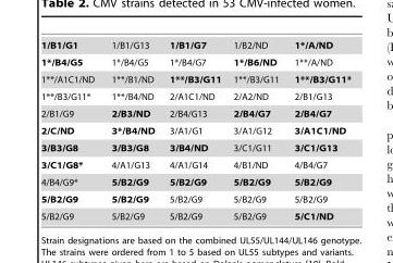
<table><tbody><tr><td>1/B1/G1</td><td>1/B1/G13</td><td>1/B1/G7</td><td>1/B2/ND</td><td>1*/A/ND</td></tr><tr><td>1*/B4/G5</td><td>1*/B4/G5</td><td>1*/B4/G7</td><td>1*/B6/ND</td><td>1**/A/ND</td></tr><tr><td>1**/A1C1/ND</td><td>1**/B1/ND</td><td>1**/B3/G11</td><td>1**/B3/G11</td><td>1**/B3/G11*</td></tr><tr><td>1**/B3/G11*</td><td>1**/B4/ND</td><td>2/A1C1/ND</td><td>2/A2/ND</td><td>2/B1/G13</td></tr><tr><td>2/B1/G9</td><td>2/B3/ND</td><td>2/B4/G13</td><td>2/B4/G7</td><td>2/B4/G7</td></tr><tr><td>2/C/ND</td><td>3*/B4/ND</td><td>3/A1/G1</td><td>3/A1/G12</td><td>3/A1C1/ND</td></tr><tr><td>3/B3/G8</td><td>3/B3/G8</td><td>3/B4/ND</td><td>3/C1/G11</td><td>3/C1/G13</td></tr><tr><td>3/C1/G8*</td><td>4/A1/G13</td><td>4/A1/G14</td><td>4/B1/ND</td><td>4/B4/G7</td></tr><tr><td>4/B4/G9*</td><td>5/B2/G9</td><td>5/B2/G9</td><td>5/B2/G9</td><td>5/B2/G9</td></tr><tr><td>5/B2/G9</td><td>5/B2/G9</td><td>5/B2/G9</td><td>5/B2/G9</td><td>5/B2/G9</td></tr><tr><td>5/B2/G9</td><td>5/B2/G9</td><td>5/B2/G9</td><td>5/B2/G9</td><td>5/C1/ND</td></tr></tbody></table>